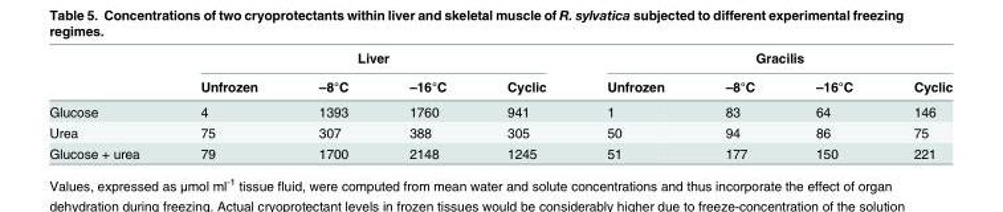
<table><thead><tr><td rowspan="2"></td><td colspan="4">Liver</td><td colspan="4">Gracilis</td></tr><tr><td>Unfrozen</td><td>–8°C</td><td>–16°C</td><td>Cyclic</td><td>Unfrozen</td><td>–8°C</td><td>–16°C</td><td>Cyclic</td></tr></thead><tbody><tr><td>Glucose</td><td>4</td><td>1393</td><td>1760</td><td>941</td><td>1</td><td>83</td><td>64</td><td>146</td></tr><tr><td>Urea</td><td>75</td><td>307</td><td>388</td><td>305</td><td>50</td><td>94</td><td>86</td><td>75</td></tr><tr><td>Glucose + urea</td><td>79</td><td>1700</td><td>2148</td><td>1245</td><td>51</td><td>177</td><td>150</td><td>221</td></tr></tbody></table>